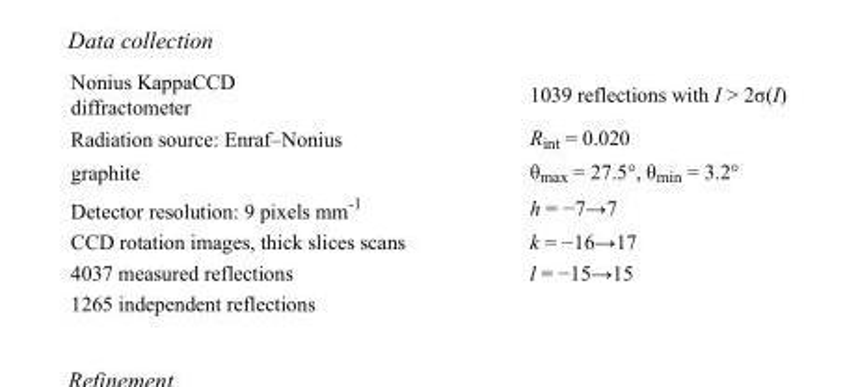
<table><tbody><tr><td>Nonius KappaCCD diffractometer</td><td>1039 reflections with I &gt; 2σ(I)</td></tr><tr><td>Radiation source: Enraf–Nonius</td><td>R<sub>int</sub> = 0.020</td></tr><tr><td>graphite</td><td>θ<sub>max</sub> = 27.5°, θ<sub>min</sub> = 3.2°</td></tr><tr><td>Detector resolution: 9 pixels mm<sup>-1</sup></td><td>h = −7→7</td></tr><tr><td>CCD rotation images, thick slices scans</td><td>k = −16→17</td></tr><tr><td>4037 measured reflections</td><td>l = −15→15</td></tr><tr><td>1265 independent reflections</td><td></td></tr></tbody></table>